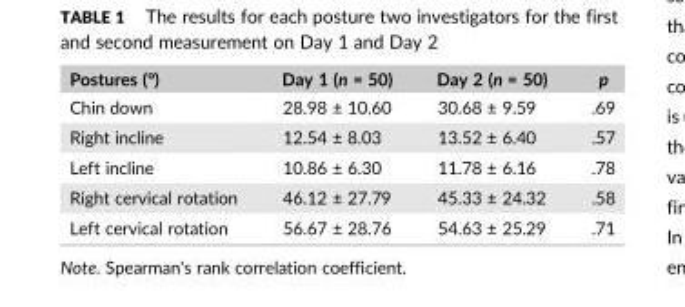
<table><thead><tr><td>Postures (°)</td><td>Day 1 (n = 50)</td><td>Day 2 (n = 50)</td><td>p</td></tr></thead><tbody><tr><td>Chin down</td><td>28.98 ± 10.60</td><td>30.68 ± 9.59</td><td>.69</td></tr><tr><td>Right incline</td><td>12.54 ± 8.03</td><td>13.52 ± 6.40</td><td>.57</td></tr><tr><td>Left incline</td><td>10.86 ± 6.30</td><td>11.78 ± 6.16</td><td>.78</td></tr><tr><td>Right cervical rotation</td><td>46.12 ± 27.79</td><td>45.33 ± 24.32</td><td>.58</td></tr><tr><td>Left cervical rotation</td><td>56.67 ± 28.76</td><td>54.63 ± 25.29</td><td>.71</td></tr></tbody></table>